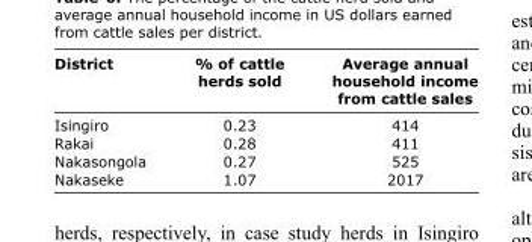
<table><thead><tr><td>District</td><td>% of cattle herds sold</td><td>Average annual household income from cattle sales</td></tr></thead><tbody><tr><td>Isingiro</td><td>0.23</td><td>414</td></tr><tr><td>Rakai</td><td>0.28</td><td>411</td></tr><tr><td>Nakasongola</td><td>0.27</td><td>525</td></tr><tr><td>Nakaseke</td><td>1.07</td><td>2017</td></tr></tbody></table>